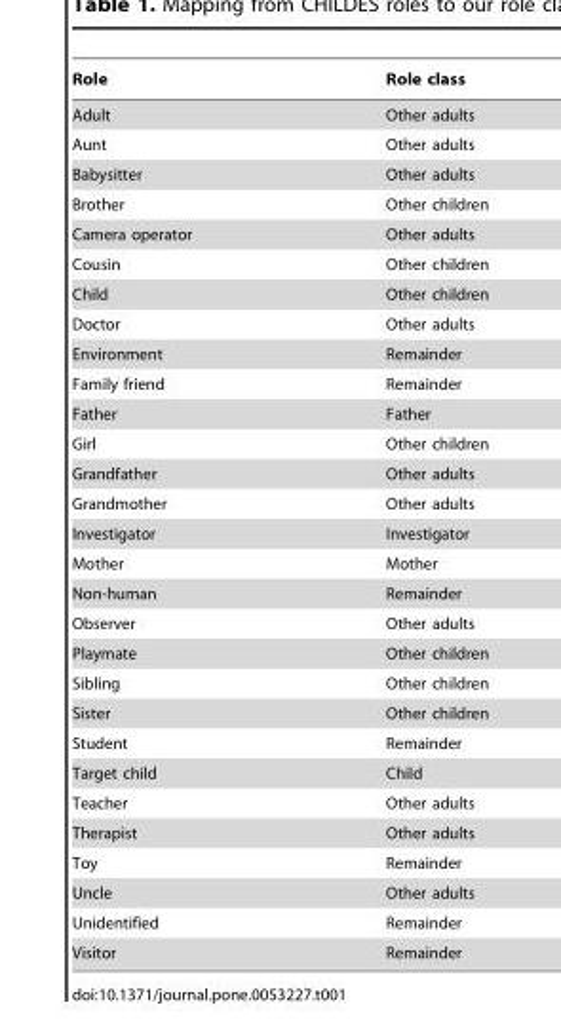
<table><thead><tr><td>Role</td><td>Role class</td></tr></thead><tbody><tr><td>Adult</td><td>Other adults</td></tr><tr><td>Aunt</td><td>Other adults</td></tr><tr><td>Babysitter</td><td>Other adults</td></tr><tr><td>Brother</td><td>Other children</td></tr><tr><td>Camera operator</td><td>Other adults</td></tr><tr><td>Cousin</td><td>Other children</td></tr><tr><td>Child</td><td>Other children</td></tr><tr><td>Doctor</td><td>Other adults</td></tr><tr><td>Environment</td><td>Remainder</td></tr><tr><td>Family friend</td><td>Remainder</td></tr><tr><td>Father</td><td>Father</td></tr><tr><td>Girl</td><td>Other children</td></tr><tr><td>Grandfather</td><td>Other adults</td></tr><tr><td>Grandmother</td><td>Other adults</td></tr><tr><td>Investigator</td><td>Investigator</td></tr><tr><td>Mother</td><td>Mother</td></tr><tr><td>Non-human</td><td>Remainder</td></tr><tr><td>Observer</td><td>Other adults</td></tr><tr><td>Playmate</td><td>Other children</td></tr><tr><td>Sibling</td><td>Other children</td></tr><tr><td>Sister</td><td>Other children</td></tr><tr><td>Student</td><td>Remainder</td></tr><tr><td>Target child</td><td>Child</td></tr><tr><td>Teacher</td><td>Other adults</td></tr><tr><td>Therapist</td><td>Other adults</td></tr><tr><td>Toy</td><td>Remainder</td></tr><tr><td>Uncle</td><td>Other adults</td></tr><tr><td>Unidentified</td><td>Remainder</td></tr><tr><td>Visitor</td><td>Remainder</td></tr></tbody></table>